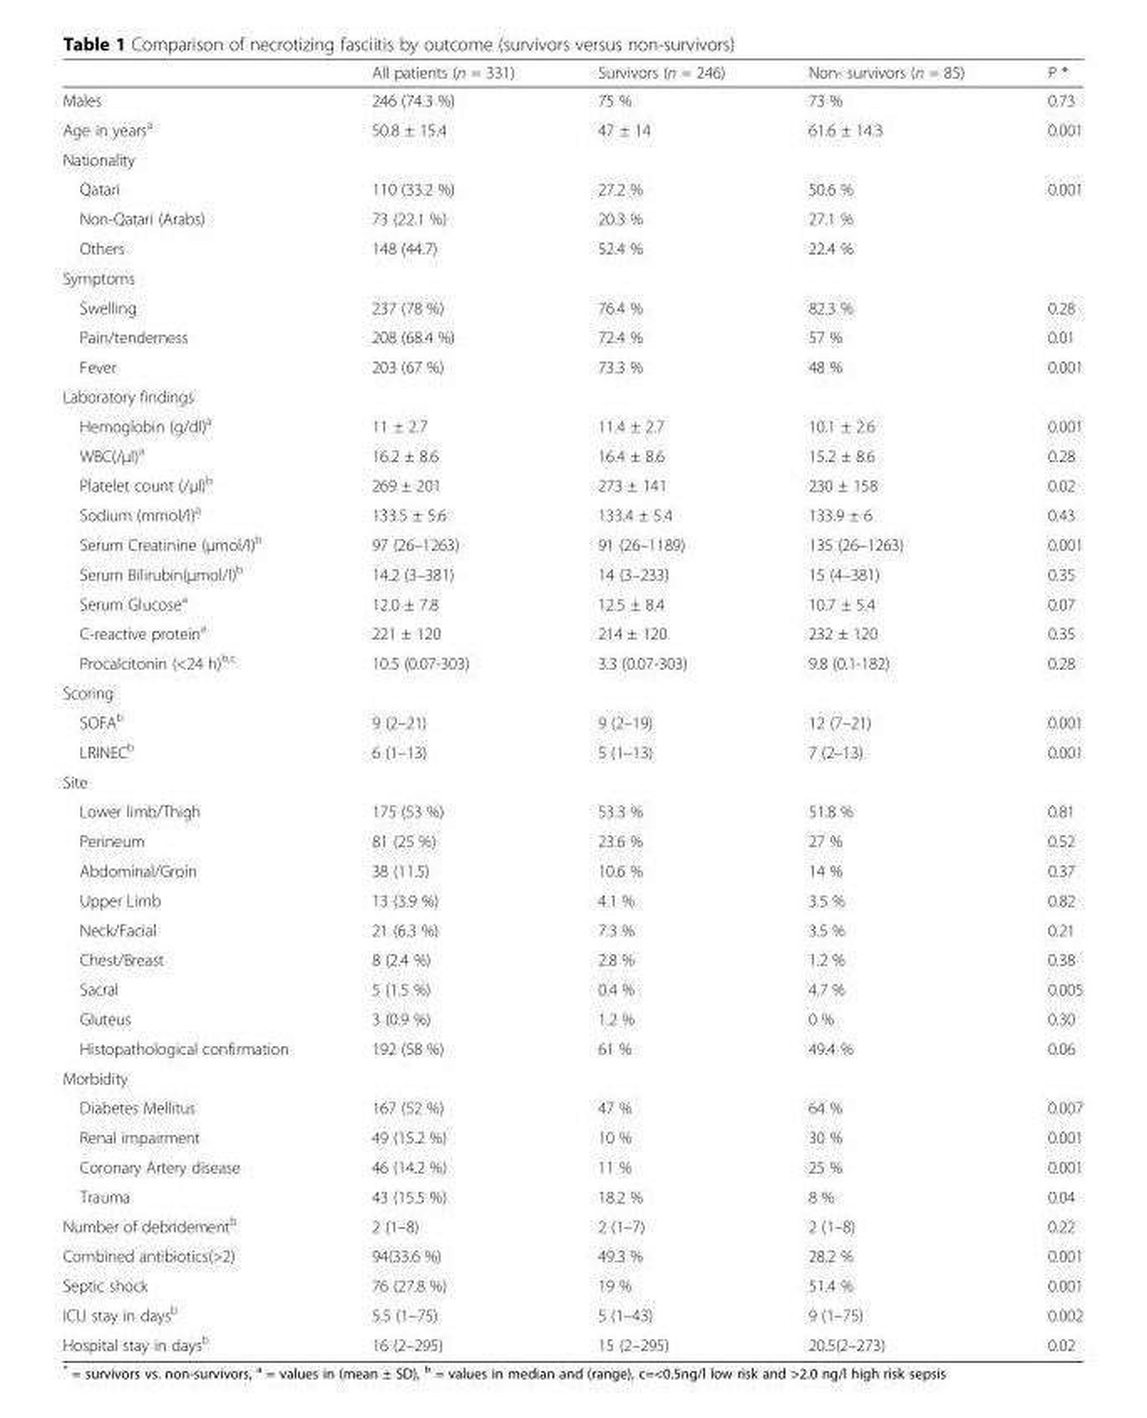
<table><thead><tr><td></td><td>All patients (n = 331)</td><td>Survivors (n = 246)</td><td>Non- survivors (n = 85)</td><td>P *</td></tr></thead><tbody><tr><td>Males</td><td>246 (74.3 %)</td><td>75 %</td><td>73 %</td><td>0.73</td></tr><tr><td>Age in years<sup>a</sup></td><td>50.8 ± 15.4</td><td>47 ± 14</td><td>61.6 ± 14.3</td><td>0.001</td></tr><tr><td colspan="5">Nationality</td></tr><tr><td>Qatari</td><td>110 (33.2 %)</td><td>27.2 %</td><td>50.6 %</td><td>0.001</td></tr><tr><td>Non-Qatari (Arabs)</td><td>73 (22.1 %)</td><td>20.3 %</td><td>27.1 %</td><td></td></tr><tr><td>Others</td><td>148 (44.7)</td><td>52.4 %</td><td>22.4 %</td><td></td></tr><tr><td colspan="5">Symptoms</td></tr><tr><td>Swelling</td><td>237 (78 %)</td><td>76.4 %</td><td>82.3 %</td><td>0.28</td></tr><tr><td>Pain/tenderness</td><td>208 (68.4 %)</td><td>72.4 %</td><td>57 %</td><td>0.01</td></tr><tr><td>Fever</td><td>203 (67 %)</td><td>73.3 %</td><td>48 %</td><td>0.001</td></tr><tr><td colspan="5">Laboratory findings</td></tr><tr><td>Hemoglobin (g/dl)<sup>a</sup></td><td>11 ± 2.7</td><td>11.4 ± 2.7</td><td>10.1 ± 2.6</td><td>0.001</td></tr><tr><td>WBC(/μl)<sup>a</sup></td><td>16.2 ± 8.6</td><td>16.4 ± 8.6</td><td>15.2 ± 8.6</td><td>0.28</td></tr><tr><td>Platelet count (/μl)<sup>b</sup></td><td>269 ± 201</td><td>273 ± 141</td><td>230 ± 158</td><td>0.02</td></tr><tr><td>Sodium (mmol/l)<sup>a</sup></td><td>133.5 ± 5.6</td><td>133.4 ± 5.4</td><td>133.9 ± 6</td><td>0.43</td></tr><tr><td>Serum Creatinine (μmol/l)<sup>b</sup></td><td>97 (26–1263)</td><td>91 (26–1189)</td><td>135 (26–1263)</td><td>0.001</td></tr><tr><td>Serum Bilirubin(μmol/l)<sup>b</sup></td><td>14.2 (3–381)</td><td>14 (3–233)</td><td>15 (4–381)</td><td>0.35</td></tr><tr><td>Serum Glucose<sup>a</sup></td><td>12.0 ± 7.8</td><td>12.5 ± 8.4</td><td>10.7 ± 5.4</td><td>0.07</td></tr><tr><td>C-reactive protein<sup>a</sup></td><td>221 ± 120</td><td>214 ± 120</td><td>232 ± 120</td><td>0.35</td></tr><tr><td>Procalcitonin (&lt;24 h)<sup>b,c</sup></td><td>10.5 (0.07-303)</td><td>3.3 (0.07-303)</td><td>9.8 (0.1-182)</td><td>0.28</td></tr><tr><td colspan="5">Scoring</td></tr><tr><td>SOFA<sup>b</sup></td><td>9 (2–21)</td><td>9 (2–19)</td><td>12 (7–21)</td><td>0.001</td></tr><tr><td>LRINEC<sup>b</sup></td><td>6 (1–13)</td><td>5 (1–13)</td><td>7 (2–13)</td><td>0.001</td></tr><tr><td colspan="5">Site</td></tr><tr><td>Lower limb/Thigh</td><td>175 (53 %)</td><td>53.3 %</td><td>51.8 %</td><td>0.81</td></tr><tr><td>Perineum</td><td>81 (25 %)</td><td>23.6 %</td><td>27 %</td><td>0.52</td></tr><tr><td>Abdominal/Groin</td><td>38 (11.5)</td><td>10.6 %</td><td>14 %</td><td>0.37</td></tr><tr><td>Upper Limb</td><td>13 (3.9 %)</td><td>4.1 %</td><td>3.5 %</td><td>0.82</td></tr><tr><td>Neck/Facial</td><td>21 (6.3 %)</td><td>7.3 %</td><td>3.5 %</td><td>0.21</td></tr><tr><td>Chest/Breast</td><td>8 (2.4 %)</td><td>2.8 %</td><td>1.2 %</td><td>0.38</td></tr><tr><td>Sacral</td><td>5 (1.5 %)</td><td>0.4 %</td><td>4.7 %</td><td>0.005</td></tr><tr><td>Gluteus</td><td>3 (0.9 %)</td><td>1.2 %</td><td>0 %</td><td>0.30</td></tr><tr><td>Histopathological confirmation</td><td>192 (58 %)</td><td>61 %</td><td>49.4 %</td><td>0.06</td></tr><tr><td colspan="5">Morbidity</td></tr><tr><td>Diabetes Mellitus</td><td>167 (52 %)</td><td>47 %</td><td>64 %</td><td>0.007</td></tr><tr><td>Renal impairment</td><td>49 (15.2 %)</td><td>10 %</td><td>30 %</td><td>0.001</td></tr><tr><td>Coronary Artery disease</td><td>46 (14.2 %)</td><td>11 %</td><td>25 %</td><td>0.001</td></tr><tr><td>Trauma</td><td>43 (15.5 %)</td><td>18.2 %</td><td>8 %</td><td>0.04</td></tr><tr><td>Number of debridement<sup>b</sup></td><td>2 (1–8)</td><td>2 (1–7)</td><td>2 (1–8)</td><td>0.22</td></tr><tr><td>Combined antibiotics(&gt;2)</td><td>94(33.6 %)</td><td>49.3 %</td><td>28.2 %</td><td>0.001</td></tr><tr><td>Septic shock</td><td>76 (27.8 %)</td><td>19 %</td><td>51.4 %</td><td>0.001</td></tr><tr><td>ICU stay in days<sup>b</sup></td><td>5.5 (1–75)</td><td>5 (1–43)</td><td>9 (1–75)</td><td>0.002</td></tr><tr><td>Hospital stay in days<sup>b</sup></td><td>16 (2–295)</td><td>15 (2–295)</td><td>20.5(2–273)</td><td>0.02</td></tr></tbody></table>